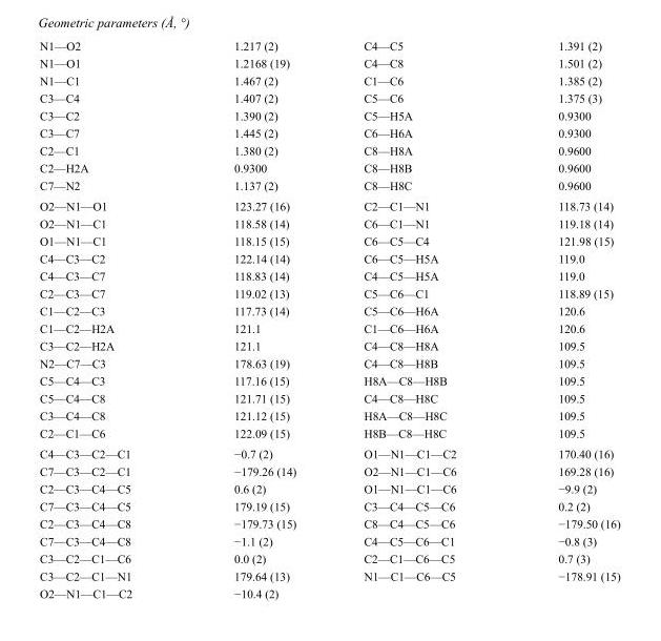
<table><tbody><tr><td>N1—O2</td><td>1.217 (2)</td><td>C4—C5</td><td>1.391 (2)</td></tr><tr><td>N1—O1</td><td>1.2168 (19)</td><td>C4—C8</td><td>1.501 (2)</td></tr><tr><td>N1—C1</td><td>1.467 (2)</td><td>C1—C6</td><td>1.385 (2)</td></tr><tr><td>C3—C4</td><td>1.407 (2)</td><td>C5—C6</td><td>1.375 (3)</td></tr><tr><td>C3—C2</td><td>1.390 (2)</td><td>C5—H5A</td><td>0.9300</td></tr><tr><td>C3—C7</td><td>1.445 (2)</td><td>C6—H6A</td><td>0.9300</td></tr><tr><td>C2—C1</td><td>1.380 (2)</td><td>C8—H8A</td><td>0.9600</td></tr><tr><td>C2—H2A</td><td>0.9300</td><td>C8—H8B</td><td>0.9600</td></tr><tr><td>C7—N2</td><td>1.137 (2)</td><td>C8—H8C</td><td>0.9600</td></tr><tr><td>O2—N1—O1</td><td>123.27 (16)</td><td>C2—C1—N1</td><td>118.73 (14)</td></tr><tr><td>O2—N1—C1</td><td>118.58 (14)</td><td>C6—C1—N1</td><td>119.18 (14)</td></tr><tr><td>O1—N1—C1</td><td>118.15 (15)</td><td>C6—C5—C4</td><td>121.98 (15)</td></tr><tr><td>C4—C3—C2</td><td>122.14 (14)</td><td>C6—C5—H5A</td><td>119.0</td></tr><tr><td>C4—C3—C7</td><td>118.83 (14)</td><td>C4—C5—H5A</td><td>119.0</td></tr><tr><td>C2—C3—C7</td><td>119.02 (13)</td><td>C5—C6—C1</td><td>118.89 (15)</td></tr><tr><td>C1—C2—C3</td><td>117.73 (14)</td><td>C5—C6—H6A</td><td>120.6</td></tr><tr><td>C1—C2—H2A</td><td>121.1</td><td>C1—C6—H6A</td><td>120.6</td></tr><tr><td>C3—C2—H2A</td><td>121.1</td><td>C4—C8—H8A</td><td>109.5</td></tr><tr><td>N2—C7—C3</td><td>178.63 (19)</td><td>C4—C8—H8B</td><td>109.5</td></tr><tr><td>C5—C4—C3</td><td>117.16 (15)</td><td>H8A—C8—H8B</td><td>109.5</td></tr><tr><td>C5—C4—C8</td><td>121.71 (15)</td><td>C4—C8—H8C</td><td>109.5</td></tr><tr><td>C3—C4—C8</td><td>121.12 (15)</td><td>H8A—C8—H8C</td><td>109.5</td></tr><tr><td>C2—C1—C6</td><td>122.09 (15)</td><td>H8B—C8—H8C</td><td>109.5</td></tr><tr><td>C4—C3—C2—C1</td><td>−0.7 (2)</td><td>O1—N1—C1—C2</td><td>170.40 (16)</td></tr><tr><td>C7—C3—C2—C1</td><td>−179.26 (14)</td><td>O2—N1—C1—C6</td><td>169.28 (16)</td></tr><tr><td>C2—C3—C4—C5</td><td>0.6 (2)</td><td>O1—N1—C1—C6</td><td>−9.9 (2)</td></tr><tr><td>C7—C3—C4—C5</td><td>179.19 (15)</td><td>C3—C4—C5—C6</td><td>0.2 (2)</td></tr><tr><td>C2—C3—C4—C8</td><td>−179.73 (15)</td><td>C8—C4—C5—C6</td><td>−179.50 (16)</td></tr><tr><td>C7—C3—C4—C8</td><td>−1.1 (2)</td><td>C4—C5—C6—C1</td><td>−0.8 (3)</td></tr><tr><td>C3—C2—C1—C6</td><td>0.0 (2)</td><td>C2—C1—C6—C5</td><td>0.7 (3)</td></tr><tr><td>C3—C2—C1—N1</td><td>179.64 (13)</td><td>N1—C1—C6—C5</td><td>−178.91 (15)</td></tr><tr><td>O2—N1—C1—C2</td><td>−10.4 (2)</td><td></td><td></td></tr></tbody></table>